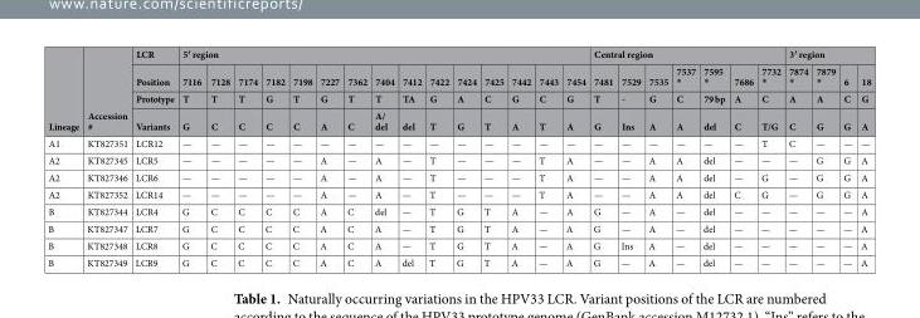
<table><thead><tr><td rowspan="4">Lineage</td><td rowspan="4">Accession #</td><td rowspan="4">LCR Position Prototype Variants</td><td colspan="15">5′ region</td><td colspan="7">Central region</td><td colspan="4">3′ region</td></tr><tr><td rowspan="3">7116 T G</td><td rowspan="3">7128 T C</td><td rowspan="3">7174 T C</td><td rowspan="3">7182 G C</td><td rowspan="3">7198 T C</td><td rowspan="3">7227 G A</td><td rowspan="3">7362 T C</td><td rowspan="3">7404 T A/ del</td><td rowspan="3">7412 TA del</td><td rowspan="3">7422 G T</td><td rowspan="3">7424 A G</td><td rowspan="3">7425 C T</td><td rowspan="3">7442 G A</td><td rowspan="3">7443 C T</td><td rowspan="3">7454 G A</td><td rowspan="3">7481 T G</td><td rowspan="3">7529 - Ins</td><td rowspan="3">7535 G A</td><td rowspan="3">7537 * C A</td><td rowspan="3">7595 * 79 bp del</td><td rowspan="3">7686 A C</td><td rowspan="3">7732 * C T/G</td><td rowspan="3">7874 * A C</td><td rowspan="3">7879 * A G</td><td rowspan="3">6 C G</td><td rowspan="3">18 G A</td></tr><tr></tr><tr></tr></thead><tbody><tr><td>A1</td><td>KT827351</td><td>LCR12</td><td>—</td><td>—</td><td>—</td><td>—</td><td>—</td><td>—</td><td>—</td><td>—</td><td>—</td><td>—</td><td>—</td><td>—</td><td>—</td><td>—</td><td>—</td><td>—</td><td>—</td><td>—</td><td>—</td><td>—</td><td>—</td><td>T</td><td>C</td><td>—</td><td>—</td><td>—</td></tr><tr><td>A2</td><td>KT827345</td><td>LCR5</td><td>—</td><td>—</td><td>—</td><td>—</td><td>—</td><td>A</td><td>—</td><td>A</td><td>—</td><td>T</td><td>—</td><td>—</td><td>—</td><td>T</td><td>A</td><td>—</td><td>—</td><td>A</td><td>A</td><td>del</td><td>—</td><td>—</td><td>—</td><td>G</td><td>G</td><td>A</td></tr><tr><td>A2</td><td>KT827346</td><td>LCR6</td><td>—</td><td>—</td><td>—</td><td>—</td><td>—</td><td>A</td><td>—</td><td>A</td><td>—</td><td>T</td><td>—</td><td>—</td><td>—</td><td>T</td><td>A</td><td>—</td><td>—</td><td>A</td><td>A</td><td>del</td><td>—</td><td>G</td><td>—</td><td>G</td><td>G</td><td>A</td></tr><tr><td>A2</td><td>KT827352</td><td>LCR14</td><td>—</td><td>—</td><td>—</td><td>—</td><td>—</td><td>A</td><td>—</td><td>A</td><td>—</td><td>T</td><td>—</td><td>—</td><td>—</td><td>T</td><td>A</td><td>—</td><td>—</td><td>A</td><td>A</td><td>del</td><td>C</td><td>G</td><td>—</td><td>G</td><td>G</td><td>A</td></tr><tr><td>B</td><td>KT827344</td><td>LCR4</td><td>G</td><td>C</td><td>C</td><td>C</td><td>C</td><td>A</td><td>C</td><td>del</td><td>—</td><td>T</td><td>G</td><td>T</td><td>A</td><td>—</td><td>A</td><td>G</td><td>—</td><td>A</td><td>—</td><td>del</td><td>—</td><td>—</td><td>—</td><td>—</td><td>—</td><td>A</td></tr><tr><td>B</td><td>KT827347</td><td>LCR7</td><td>G</td><td>C</td><td>C</td><td>C</td><td>C</td><td>A</td><td>C</td><td>A</td><td>—</td><td>T</td><td>G</td><td>T</td><td>A</td><td>—</td><td>A</td><td>G</td><td>—</td><td>A</td><td>—</td><td>del</td><td>—</td><td>—</td><td>—</td><td>—</td><td>—</td><td>A</td></tr><tr><td>B</td><td>KT827348</td><td>LCR8</td><td>G</td><td>C</td><td>C</td><td>C</td><td>C</td><td>A</td><td>C</td><td>A</td><td>—</td><td>T</td><td>G</td><td>T</td><td>A</td><td>—</td><td>A</td><td>G</td><td>Ins</td><td>A</td><td>—</td><td>del</td><td>—</td><td>—</td><td>—</td><td>—</td><td>—</td><td>A</td></tr><tr><td>B</td><td>KT827349</td><td>LCR9</td><td>G</td><td>C</td><td>C</td><td>C</td><td>C</td><td>A</td><td>C</td><td>A</td><td>del</td><td>T</td><td>G</td><td>T</td><td>A</td><td>—</td><td>A</td><td>G</td><td>—</td><td>A</td><td>—</td><td>del</td><td>—</td><td>—</td><td>—</td><td>—</td><td>—</td><td>A</td></tr></tbody></table>